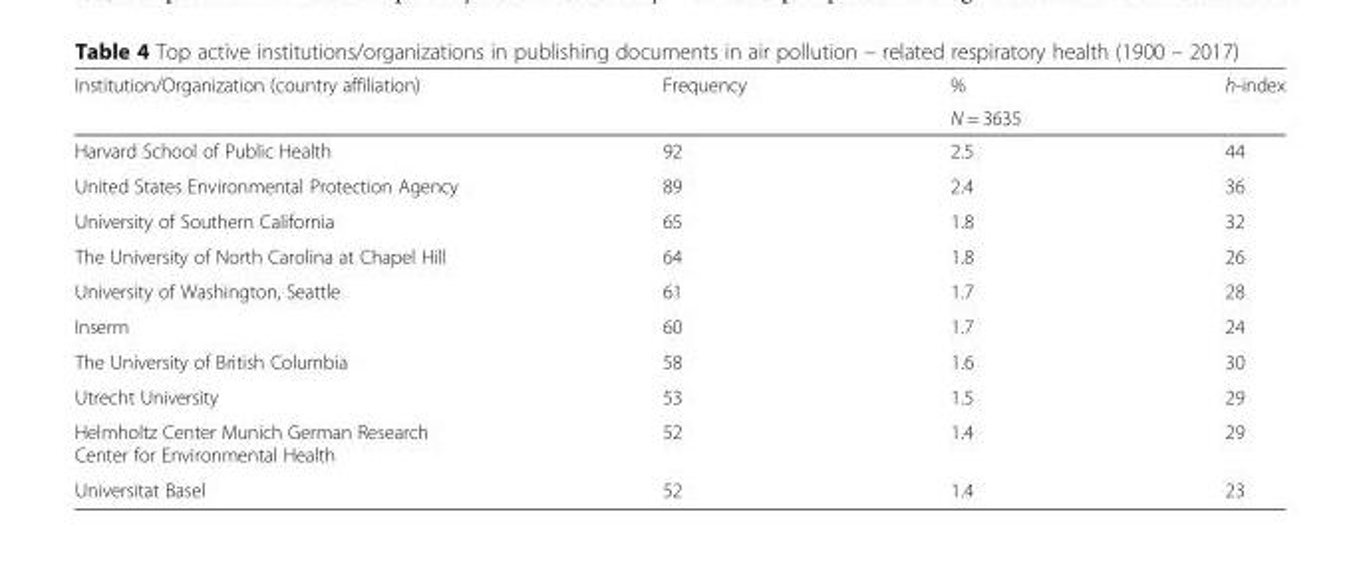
<table><thead><tr><td rowspan="2">Institution/Organization (country affiliation)</td><td rowspan="2">Frequency</td><td rowspan="2">% N = 3635</td><td rowspan="2">h-index</td></tr><tr></tr></thead><tbody><tr><td>Harvard School of Public Health</td><td>92</td><td>2.5</td><td>44</td></tr><tr><td>United States Environmental Protection Agency</td><td>89</td><td>2.4</td><td>36</td></tr><tr><td>University of Southern California</td><td>65</td><td>1.8</td><td>32</td></tr><tr><td>The University of North Carolina at Chapel Hill</td><td>64</td><td>1.8</td><td>26</td></tr><tr><td>University of Washington, Seattle</td><td>61</td><td>1.7</td><td>28</td></tr><tr><td>Inserm</td><td>60</td><td>1.7</td><td>24</td></tr><tr><td>The University of British Columbia</td><td>58</td><td>1.6</td><td>30</td></tr><tr><td>Utrecht University</td><td>53</td><td>1.5</td><td>29</td></tr><tr><td>Helmholtz Center Munich German Research Center for Environmental Health</td><td>52</td><td>1.4</td><td>29</td></tr><tr><td>Universitat Basel</td><td>52</td><td>1.4</td><td>23</td></tr></tbody></table>